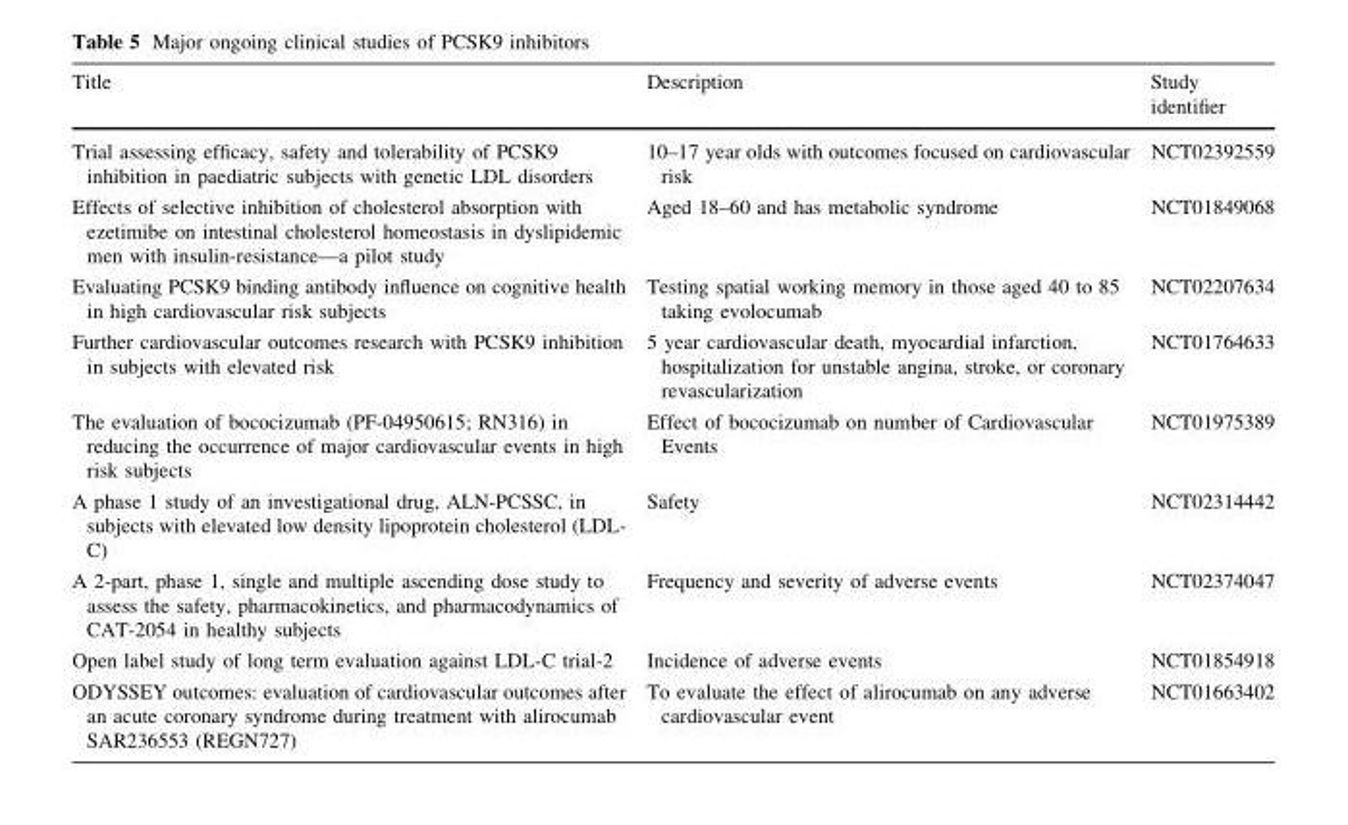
<table><thead><tr><td>Title</td><td>Description</td><td>Study identifier</td></tr></thead><tbody><tr><td>Trial assessing efficacy, safety and tolerability of PCSK9 inhibition in paediatric subjects with genetic LDL disorders</td><td>10–17 year olds with outcomes focused on cardiovascular risk</td><td>NCT02392559</td></tr><tr><td>Effects of selective inhibition of cholesterol absorption with ezetimibe on intestinal cholesterol homeostasis in dyslipidemic men with insulin-resistance—a pilot study</td><td>Aged 18–60 and has metabolic syndrome</td><td>NCT01849068</td></tr><tr><td>Evaluating PCSK9 binding antibody influence on cognitive health in high cardiovascular risk subjects</td><td>Testing spatial working memory in those aged 40 to 85 taking evolocumab</td><td>NCT02207634</td></tr><tr><td>Further cardiovascular outcomes research with PCSK9 inhibition in subjects with elevated risk</td><td>5 year cardiovascular death, myocardial infarction, hospitalization for unstable angina, stroke, or coronary revascularization</td><td>NCT01764633</td></tr><tr><td>The evaluation of bococizumab (PF-04950615; RN316) in reducing the occurrence of major cardiovascular events in high risk subjects</td><td>Effect of bococizumab on number of Cardiovascular Events</td><td>NCT01975389</td></tr><tr><td>A phase 1 study of an investigational drug, ALN-PCSSC, in subjects with elevated low density lipoprotein cholesterol (LDL- C)</td><td>Safety</td><td>NCT02314442</td></tr><tr><td>A 2-part, phase 1, single and multiple ascending dose study to assess the safety, pharmacokinetics, and pharmacodynamics of CAT-2054 in healthy subjects</td><td>Frequency and severity of adverse events</td><td>NCT02374047</td></tr><tr><td>Open label study of long term evaluation against LDL-C trial-2</td><td>Incidence of adverse events</td><td>NCT01854918</td></tr><tr><td>ODYSSEY outcomes: evaluation of cardiovascular outcomes after an acute coronary syndrome during treatment with alirocumab SAR236553 (REGN727)</td><td>To evaluate the effect of alirocumab on any adverse cardiovascular event</td><td>NCT01663402</td></tr></tbody></table>